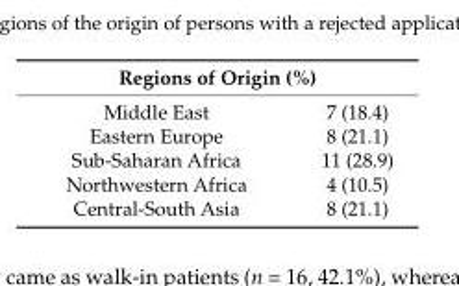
<table><thead><tr><td colspan="2">Regions of Origin (%)</td></tr><tr><td>Middle East</td><td>7 (18.4)</td></tr></thead><tbody><tr><td>Eastern Europe</td><td>8 (21.1)</td></tr><tr><td>Sub-Saharan Africa</td><td>11 (28.9)</td></tr><tr><td>Northwestern Africa</td><td>4 (10.5)</td></tr><tr><td>Central-South Asia</td><td>8 (21.1)</td></tr></tbody></table>